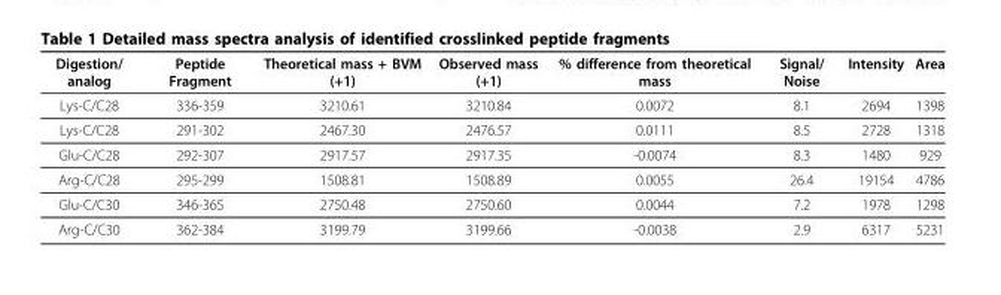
<table><thead><tr><td>Digestion/ analog</td><td>Peptide Fragment</td><td>Theoretical mass + BVM (+1)</td><td>Observed mass (+1)</td><td>% difference from theoretical mass</td><td>Signal/ Noise</td><td>Intensity</td><td>Area</td></tr></thead><tbody><tr><td>Lys-C/C28</td><td>336-359</td><td>3210.61</td><td>3210.84</td><td>0.0072</td><td>8.1</td><td>2694</td><td>1398</td></tr><tr><td>Lys-C/C28</td><td>291-302</td><td>2467.30</td><td>2476.57</td><td>0.0111</td><td>8.5</td><td>2728</td><td>1318</td></tr><tr><td>Glu-C/C28</td><td>292-307</td><td>2917.57</td><td>2917.35</td><td>-0.0074</td><td>8.3</td><td>1480</td><td>929</td></tr><tr><td>Arg-C/C28</td><td>295-299</td><td>1508.81</td><td>1508.89</td><td>0.0055</td><td>26.4</td><td>19154</td><td>4786</td></tr><tr><td>Glu-C/C30</td><td>346-365</td><td>2750.48</td><td>2750.60</td><td>0.0044</td><td>7.2</td><td>1978</td><td>1298</td></tr><tr><td>Arg-C/C30</td><td>362-384</td><td>3199.79</td><td>3199.66</td><td>-0.0038</td><td>2.9</td><td>6317</td><td>5231</td></tr></tbody></table>